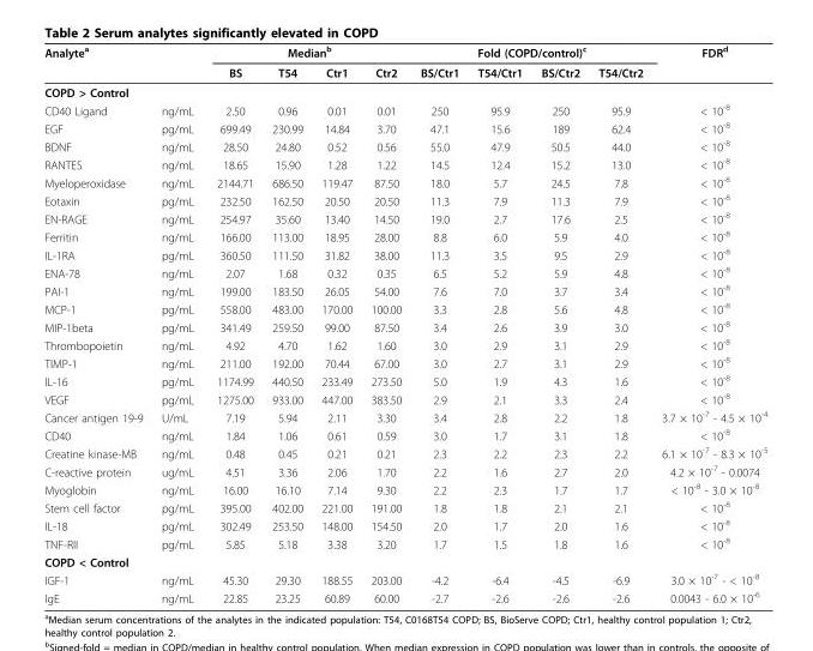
<table><thead><tr><td rowspan="2">Analyte<sup>a</sup></td><td rowspan="2"></td><td colspan="4">Median<sup>b</sup></td><td colspan="4">Fold (COPD/control)<sup>c</sup></td><td rowspan="2">FDR<sup>d</sup></td></tr><tr><td>BS</td><td>T54</td><td>Ctr1</td><td>Ctr2</td><td>BS/Ctr1</td><td>T54/Ctr1</td><td>BS/Ctr2</td><td>T54/Ctr2</td></tr></thead><tbody><tr><td colspan="11">COPD &gt; Control</td></tr><tr><td>CD40 Ligand</td><td>ng/mL</td><td>2.50</td><td>0.96</td><td>0.01</td><td>0.01</td><td>250</td><td>95.9</td><td>250</td><td>95.9</td><td>&lt; 10<sup>-8</sup></td></tr><tr><td>EGF</td><td>pg/mL</td><td>699.49</td><td>230.99</td><td>14.84</td><td>3.70</td><td>47.1</td><td>15.6</td><td>189</td><td>62.4</td><td>&lt; 10<sup>-8</sup></td></tr><tr><td>BDNF</td><td>ng/mL</td><td>28.50</td><td>24.80</td><td>0.52</td><td>0.56</td><td>55.0</td><td>47.9</td><td>50.5</td><td>44.0</td><td>&lt; 10<sup>-8</sup></td></tr><tr><td>RANTES</td><td>ng/mL</td><td>18.65</td><td>15.90</td><td>1.28</td><td>1.22</td><td>14.5</td><td>12.4</td><td>15.2</td><td>13.0</td><td>&lt; 10<sup>-8</sup></td></tr><tr><td>Myeloperoxidase</td><td>ng/mL</td><td>2144.71</td><td>686.50</td><td>119.47</td><td>87.50</td><td>18.0</td><td>5.7</td><td>24.5</td><td>7.8</td><td>&lt; 10<sup>-8</sup></td></tr><tr><td>Eotaxin</td><td>pg/mL</td><td>232.50</td><td>162.50</td><td>20.50</td><td>20.50</td><td>11.3</td><td>7.9</td><td>11.3</td><td>7.9</td><td>&lt; 10<sup>-8</sup></td></tr><tr><td>EN-RAGE</td><td>ng/mL</td><td>254.97</td><td>35.60</td><td>13.40</td><td>14.50</td><td>19.0</td><td>2.7</td><td>17.6</td><td>2.5</td><td>&lt; 10<sup>-8</sup></td></tr><tr><td>Ferritin</td><td>ng/mL</td><td>166.00</td><td>113.00</td><td>18.95</td><td>28.00</td><td>8.8</td><td>6.0</td><td>5.9</td><td>4.0</td><td>&lt; 10<sup>-8</sup></td></tr><tr><td>IL-1RA</td><td>pg/mL</td><td>360.50</td><td>111.50</td><td>31.82</td><td>38.00</td><td>11.3</td><td>3.5</td><td>9.5</td><td>2.9</td><td>&lt; 10<sup>-8</sup></td></tr><tr><td>ENA-78</td><td>ng/mL</td><td>2.07</td><td>1.68</td><td>0.32</td><td>0.35</td><td>6.5</td><td>5.2</td><td>5.9</td><td>4.8</td><td>&lt; 10<sup>-8</sup></td></tr><tr><td>PAI-1</td><td>ng/mL</td><td>199.00</td><td>183.50</td><td>26.05</td><td>54.00</td><td>7.6</td><td>7.0</td><td>3.7</td><td>3.4</td><td>&lt; 10<sup>-8</sup></td></tr><tr><td>MCP-1</td><td>pg/mL</td><td>558.00</td><td>483.00</td><td>170.00</td><td>100.00</td><td>3.3</td><td>2.8</td><td>5.6</td><td>4.8</td><td>&lt; 10<sup>-8</sup></td></tr><tr><td>MIP-1beta</td><td>pg/mL</td><td>341.49</td><td>259.50</td><td>99.00</td><td>87.50</td><td>3.4</td><td>2.6</td><td>3.9</td><td>3.0</td><td>&lt; 10<sup>-8</sup></td></tr><tr><td>Thrombopoietin</td><td>ng/mL</td><td>4.92</td><td>4.70</td><td>1.62</td><td>1.60</td><td>3.0</td><td>2.9</td><td>3.1</td><td>2.9</td><td>&lt; 10<sup>-8</sup></td></tr><tr><td>TIMP-1</td><td>ng/mL</td><td>211.00</td><td>192.00</td><td>70.44</td><td>67.00</td><td>3.0</td><td>2.7</td><td>3.1</td><td>2.9</td><td>&lt; 10<sup>-8</sup></td></tr><tr><td>IL-16</td><td>pg/mL</td><td>1174.99</td><td>440.50</td><td>233.49</td><td>273.50</td><td>5.0</td><td>1.9</td><td>4.3</td><td>1.6</td><td>&lt; 10<sup>-8</sup></td></tr><tr><td>VEGF</td><td>pg/mL</td><td>1275.00</td><td>933.00</td><td>447.00</td><td>383.50</td><td>2.9</td><td>2.1</td><td>3.3</td><td>2.4</td><td>&lt; 10<sup>-8</sup></td></tr><tr><td>Cancer antigen 19-9</td><td>U/mL</td><td>7.19</td><td>5.94</td><td>2.11</td><td>3.30</td><td>3.4</td><td>2.8</td><td>2.2</td><td>1.8</td><td>3.7 × 10<sup>-7</sup> - 4.5 × 10<sup>-4</sup></td></tr><tr><td>CD40</td><td>ng/mL</td><td>1.84</td><td>1.06</td><td>0.61</td><td>0.59</td><td>3.0</td><td>1.7</td><td>3.1</td><td>1.8</td><td>&lt; 10<sup>-8</sup></td></tr><tr><td>Creatine kinase-MB</td><td>ng/mL</td><td>0.48</td><td>0.45</td><td>0.21</td><td>0.21</td><td>2.3</td><td>2.2</td><td>2.3</td><td>2.2</td><td>6.1 × 10<sup>-7</sup> - 8.3 × 10<sup>-5</sup></td></tr><tr><td>C-reactive protein</td><td>ug/mL</td><td>4.51</td><td>3.36</td><td>2.06</td><td>1.70</td><td>2.2</td><td>1.6</td><td>2.7</td><td>2.0</td><td>4.2 × 10<sup>-7</sup> - 0.0074</td></tr><tr><td>Myoglobin</td><td>ng/mL</td><td>16.00</td><td>16.10</td><td>7.14</td><td>9.30</td><td>2.2</td><td>2.3</td><td>1.7</td><td>1.7</td><td>&lt; 10<sup>-8</sup> - 3.0 × 10<sup>-8</sup></td></tr><tr><td>Stem cell factor</td><td>pg/mL</td><td>395.00</td><td>402.00</td><td>221.00</td><td>191.00</td><td>1.8</td><td>1.8</td><td>2.1</td><td>2.1</td><td>&lt; 10<sup>-8</sup></td></tr><tr><td>IL-18</td><td>pg/mL</td><td>302.49</td><td>253.50</td><td>148.00</td><td>154.50</td><td>2.0</td><td>1.7</td><td>2.0</td><td>1.6</td><td>&lt; 10<sup>-8</sup></td></tr><tr><td>TNF-RII</td><td>pg/mL</td><td>5.85</td><td>5.18</td><td>3.38</td><td>3.20</td><td>1.7</td><td>1.5</td><td>1.8</td><td>1.6</td><td>&lt; 10<sup>-8</sup></td></tr><tr><td colspan="11">COPD &lt; Control</td></tr><tr><td>IGF-1</td><td>ng/mL</td><td>45.30</td><td>29.30</td><td>188.55</td><td>203.00</td><td>-4.2</td><td>-6.4</td><td>-4.5</td><td>-6.9</td><td>3.0 × 10<sup>-7</sup> - &lt; 10<sup>-8</sup></td></tr><tr><td>IgE</td><td>ng/mL</td><td>22.85</td><td>23.25</td><td>60.89</td><td>60.00</td><td>-2.7</td><td>-2.6</td><td>-2.6</td><td>-2.6</td><td>0.0043 - 6.0 × 10<sup>-6</sup></td></tr></tbody></table>